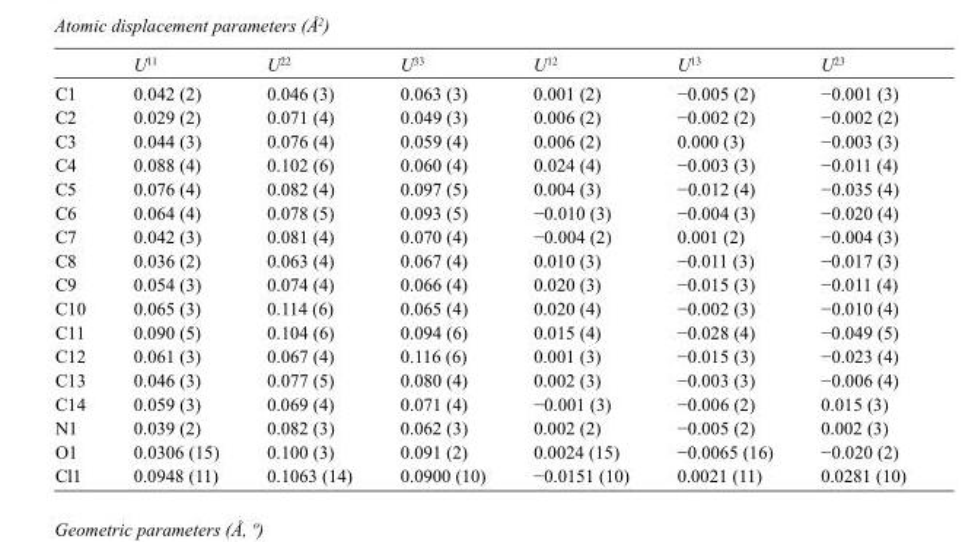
<table><thead><tr><td></td><td>U<sup>11</sup></td><td>U<sup>22</sup></td><td>U<sup>33</sup></td><td>U<sup>12</sup></td><td>U<sup>13</sup></td><td>U<sup>23</sup></td></tr></thead><tbody><tr><td>C1</td><td>0.042 (2)</td><td>0.046 (3)</td><td>0.063 (3)</td><td>0.001 (2)</td><td>−0.005 (2)</td><td>−0.001 (3)</td></tr><tr><td>C2</td><td>0.029 (2)</td><td>0.071 (4)</td><td>0.049 (3)</td><td>0.006 (2)</td><td>−0.002 (2)</td><td>−0.002 (2)</td></tr><tr><td>C3</td><td>0.044 (3)</td><td>0.076 (4)</td><td>0.059 (4)</td><td>0.006 (2)</td><td>0.000 (3)</td><td>−0.003 (3)</td></tr><tr><td>C4</td><td>0.088 (4)</td><td>0.102 (6)</td><td>0.060 (4)</td><td>0.024 (4)</td><td>−0.003 (3)</td><td>−0.011 (4)</td></tr><tr><td>C5</td><td>0.076 (4)</td><td>0.082 (4)</td><td>0.097 (5)</td><td>0.004 (3)</td><td>−0.012 (4)</td><td>−0.035 (4)</td></tr><tr><td>C6</td><td>0.064 (4)</td><td>0.078 (5)</td><td>0.093 (5)</td><td>−0.010 (3)</td><td>−0.004 (3)</td><td>−0.020 (4)</td></tr><tr><td>C7</td><td>0.042 (3)</td><td>0.081 (4)</td><td>0.070 (4)</td><td>−0.004 (2)</td><td>0.001 (2)</td><td>−0.004 (3)</td></tr><tr><td>C8</td><td>0.036 (2)</td><td>0.063 (4)</td><td>0.067 (4)</td><td>0.010 (3)</td><td>−0.011 (3)</td><td>−0.017 (3)</td></tr><tr><td>C9</td><td>0.054 (3)</td><td>0.074 (4)</td><td>0.066 (4)</td><td>0.020 (3)</td><td>−0.015 (3)</td><td>−0.011 (4)</td></tr><tr><td>C10</td><td>0.065 (3)</td><td>0.114 (6)</td><td>0.065 (4)</td><td>0.020 (4)</td><td>−0.002 (3)</td><td>−0.010 (4)</td></tr><tr><td>C11</td><td>0.090 (5)</td><td>0.104 (6)</td><td>0.094 (6)</td><td>0.015 (4)</td><td>−0.028 (4)</td><td>−0.049 (5)</td></tr><tr><td>C12</td><td>0.061 (3)</td><td>0.067 (4)</td><td>0.116 (6)</td><td>0.001 (3)</td><td>−0.015 (3)</td><td>−0.023 (4)</td></tr><tr><td>C13</td><td>0.046 (3)</td><td>0.077 (5)</td><td>0.080 (4)</td><td>0.002 (3)</td><td>−0.003 (3)</td><td>−0.006 (4)</td></tr><tr><td>C14</td><td>0.059 (3)</td><td>0.069 (4)</td><td>0.071 (4)</td><td>−0.001 (3)</td><td>−0.006 (2)</td><td>0.015 (3)</td></tr><tr><td>N1</td><td>0.039 (2)</td><td>0.082 (3)</td><td>0.062 (3)</td><td>0.002 (2)</td><td>−0.005 (2)</td><td>0.002 (3)</td></tr><tr><td>O1</td><td>0.0306 (15)</td><td>0.100 (3)</td><td>0.091 (2)</td><td>0.0024 (15)</td><td>−0.0065 (16)</td><td>−0.020 (2)</td></tr><tr><td>Cl1</td><td>0.0948 (11)</td><td>0.1063 (14)</td><td>0.0900 (10)</td><td>−0.0151 (10)</td><td>0.0021 (11)</td><td>0.0281 (10)</td></tr></tbody></table>